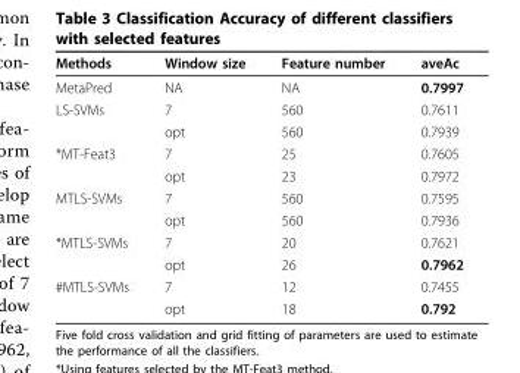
<table><thead><tr><td>Methods</td><td>Window size</td><td>Feature number</td><td>aveAc</td></tr></thead><tbody><tr><td>MetaPred</td><td>NA</td><td>NA</td><td>0.7997</td></tr><tr><td rowspan="2">LS-SVMs</td><td>7</td><td>560</td><td>0.7611</td></tr><tr><td>opt</td><td>560</td><td>0.7939</td></tr><tr><td rowspan="2">*MT-Feat3</td><td>7</td><td>25</td><td>0.7605</td></tr><tr><td>opt</td><td>23</td><td>0.7972</td></tr><tr><td rowspan="2">MTLS-SVMs</td><td>7</td><td>560</td><td>0.7595</td></tr><tr><td>opt</td><td>560</td><td>0.7936</td></tr><tr><td rowspan="2">*MTLS-SVMs</td><td>7</td><td>20</td><td>0.7621</td></tr><tr><td>opt</td><td>26</td><td>0.7962</td></tr><tr><td rowspan="2">#MTLS-SVMs</td><td>7</td><td>12</td><td>0.7455</td></tr><tr><td>opt</td><td>18</td><td>0.792</td></tr></tbody></table>